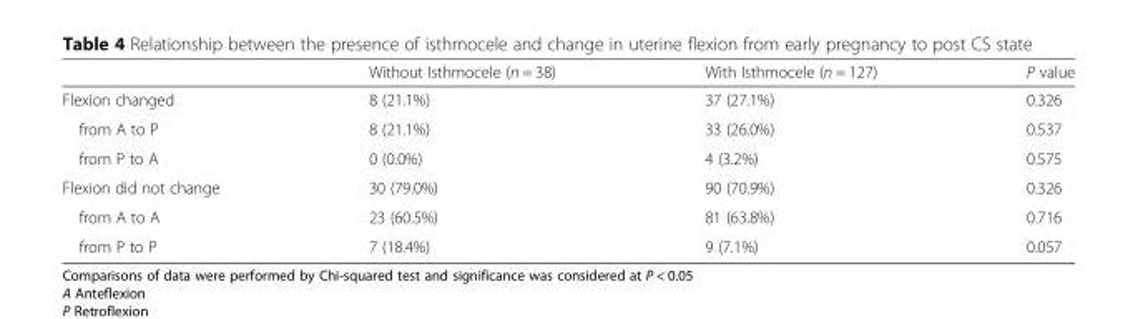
<table><thead><tr><td></td><td>Without Isthmocele (n = 38)</td><td>With Isthmocele (n = 127)</td><td>P value</td></tr></thead><tbody><tr><td>Flexion changed</td><td>8 (21.1%)</td><td>37 (27.1%)</td><td>0.326</td></tr><tr><td>from A to P</td><td>8 (21.1%)</td><td>33 (26.0%)</td><td>0.537</td></tr><tr><td>from P to A</td><td>0 (0.0%)</td><td>4 (3.2%)</td><td>0.575</td></tr><tr><td>Flexion did not change</td><td>30 (79.0%)</td><td>90 (70.9%)</td><td>0.326</td></tr><tr><td>from A to A</td><td>23 (60.5%)</td><td>81 (63.8%)</td><td>0.716</td></tr><tr><td>from P to P</td><td>7 (18.4%)</td><td>9 (7.1%)</td><td>0.057</td></tr></tbody></table>